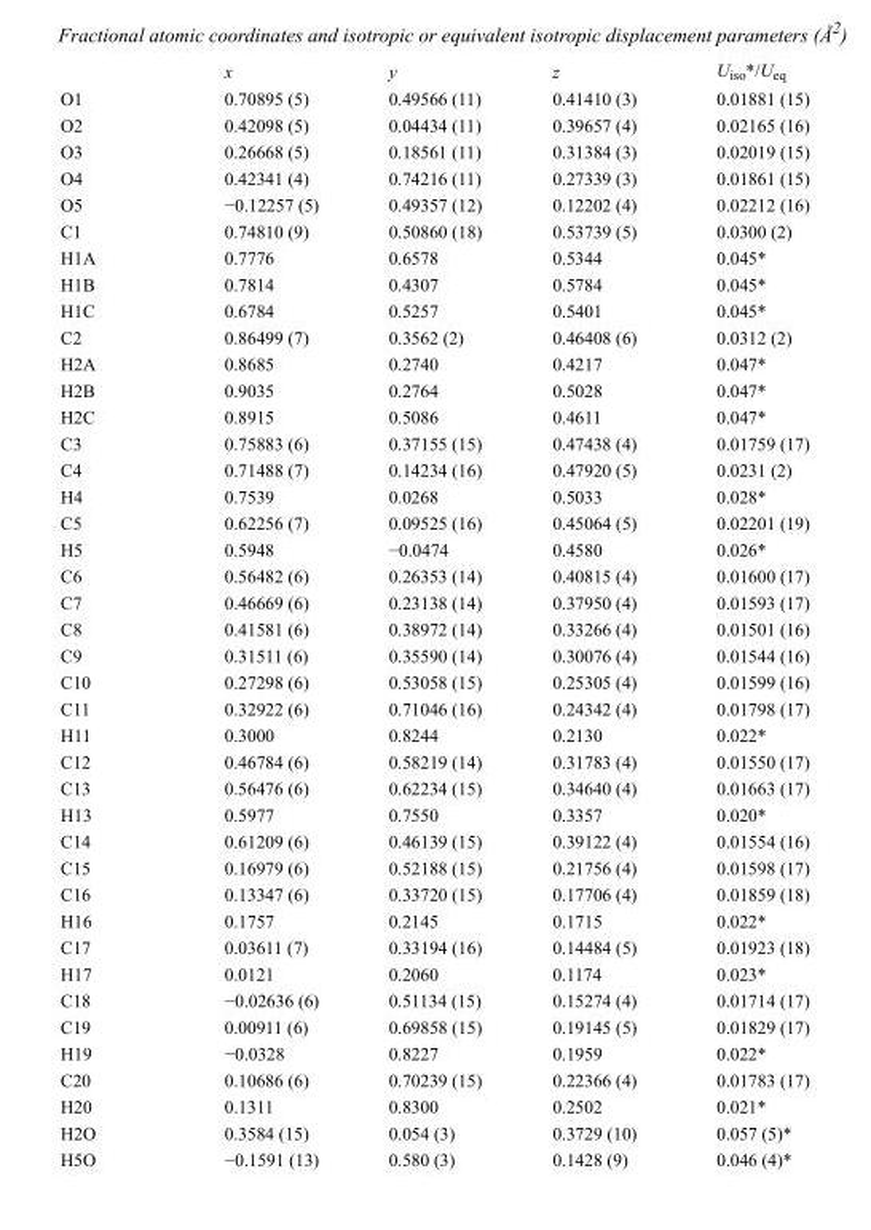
<table><thead><tr><td></td><td>x</td><td>y</td><td>z</td><td>U<sub>iso</sub>*/U<sub>eq</sub></td></tr></thead><tbody><tr><td>O1</td><td>0.70895 (5)</td><td>0.49566 (11)</td><td>0.41410 (3)</td><td>0.01881 (15)</td></tr><tr><td>O2</td><td>0.42098 (5)</td><td>0.04434 (11)</td><td>0.39657 (4)</td><td>0.02165 (16)</td></tr><tr><td>O3</td><td>0.26668 (5)</td><td>0.18561 (11)</td><td>0.31384 (3)</td><td>0.02019 (15)</td></tr><tr><td>O4</td><td>0.42341 (4)</td><td>0.74216 (11)</td><td>0.27339 (3)</td><td>0.01861 (15)</td></tr><tr><td>O5</td><td>−0.12257 (5)</td><td>0.49357 (12)</td><td>0.12202 (4)</td><td>0.02212 (16)</td></tr><tr><td>C1</td><td>0.74810 (9)</td><td>0.50860 (18)</td><td>0.53739 (5)</td><td>0.0300 (2)</td></tr><tr><td>H1A</td><td>0.7776</td><td>0.6578</td><td>0.5344</td><td>0.045*</td></tr><tr><td>H1B</td><td>0.7814</td><td>0.4307</td><td>0.5784</td><td>0.045*</td></tr><tr><td>H1C</td><td>0.6784</td><td>0.5257</td><td>0.5401</td><td>0.045*</td></tr><tr><td>C2</td><td>0.86499 (7)</td><td>0.3562 (2)</td><td>0.46408 (6)</td><td>0.0312 (2)</td></tr><tr><td>H2A</td><td>0.8685</td><td>0.2740</td><td>0.4217</td><td>0.047*</td></tr><tr><td>H2B</td><td>0.9035</td><td>0.2764</td><td>0.5028</td><td>0.047*</td></tr><tr><td>H2C</td><td>0.8915</td><td>0.5086</td><td>0.4611</td><td>0.047*</td></tr><tr><td>C3</td><td>0.75883 (6)</td><td>0.37155 (15)</td><td>0.47438 (4)</td><td>0.01759 (17)</td></tr><tr><td>C4</td><td>0.71488 (7)</td><td>0.14234 (16)</td><td>0.47920 (5)</td><td>0.0231 (2)</td></tr><tr><td>H4</td><td>0.7539</td><td>0.0268</td><td>0.5033</td><td>0.028*</td></tr><tr><td>C5</td><td>0.62256 (7)</td><td>0.09525 (16)</td><td>0.45064 (5)</td><td>0.02201 (19)</td></tr><tr><td>H5</td><td>0.5948</td><td>−0.0474</td><td>0.4580</td><td>0.026*</td></tr><tr><td>C6</td><td>0.56482 (6)</td><td>0.26353 (14)</td><td>0.40815 (4)</td><td>0.01600 (17)</td></tr><tr><td>C7</td><td>0.46669 (6)</td><td>0.23138 (14)</td><td>0.37950 (4)</td><td>0.01593 (17)</td></tr><tr><td>C8</td><td>0.41581 (6)</td><td>0.38972 (14)</td><td>0.33266 (4)</td><td>0.01501 (16)</td></tr><tr><td>C9</td><td>0.31511 (6)</td><td>0.35590 (14)</td><td>0.30076 (4)</td><td>0.01544 (16)</td></tr><tr><td>C10</td><td>0.27298 (6)</td><td>0.53058 (15)</td><td>0.25305 (4)</td><td>0.01599 (16)</td></tr><tr><td>C11</td><td>0.32922 (6)</td><td>0.71046 (16)</td><td>0.24342 (4)</td><td>0.01798 (17)</td></tr><tr><td>H11</td><td>0.3000</td><td>0.8244</td><td>0.2130</td><td>0.022*</td></tr><tr><td>C12</td><td>0.46784 (6)</td><td>0.58219 (14)</td><td>0.31783 (4)</td><td>0.01550 (17)</td></tr><tr><td>C13</td><td>0.56476 (6)</td><td>0.62234 (15)</td><td>0.34640 (4)</td><td>0.01663 (17)</td></tr><tr><td>H13</td><td>0.5977</td><td>0.7550</td><td>0.3357</td><td>0.020*</td></tr><tr><td>C14</td><td>0.61209 (6)</td><td>0.46139 (15)</td><td>0.39122 (4)</td><td>0.01554 (16)</td></tr><tr><td>C15</td><td>0.16979 (6)</td><td>0.52188 (15)</td><td>0.21756 (4)</td><td>0.01598 (17)</td></tr><tr><td>C16</td><td>0.13347 (6)</td><td>0.33720 (15)</td><td>0.17706 (4)</td><td>0.01859 (18)</td></tr><tr><td>H16</td><td>0.1757</td><td>0.2145</td><td>0.1715</td><td>0.022*</td></tr><tr><td>C17</td><td>0.03611 (7)</td><td>0.33194 (16)</td><td>0.14484 (5)</td><td>0.01923 (18)</td></tr><tr><td>H17</td><td>0.0121</td><td>0.2060</td><td>0.1174</td><td>0.023*</td></tr><tr><td>C18</td><td>−0.02636 (6)</td><td>0.51134 (15)</td><td>0.15274 (4)</td><td>0.01714 (17)</td></tr><tr><td>C19</td><td>0.00911 (6)</td><td>0.69858 (15)</td><td>0.19145 (5)</td><td>0.01829 (17)</td></tr><tr><td>H19</td><td>−0.0328</td><td>0.8227</td><td>0.1959</td><td>0.022*</td></tr><tr><td>C20</td><td>0.10686 (6)</td><td>0.70239 (15)</td><td>0.22366 (4)</td><td>0.01783 (17)</td></tr><tr><td>H20</td><td>0.1311</td><td>0.8300</td><td>0.2502</td><td>0.021*</td></tr><tr><td>H2O</td><td>0.3584 (15)</td><td>0.054 (3)</td><td>0.3729 (10)</td><td>0.057 (5)*</td></tr><tr><td>H5O</td><td>−0.1591 (13)</td><td>0.580 (3)</td><td>0.1428 (9)</td><td>0.046 (4)*</td></tr></tbody></table>